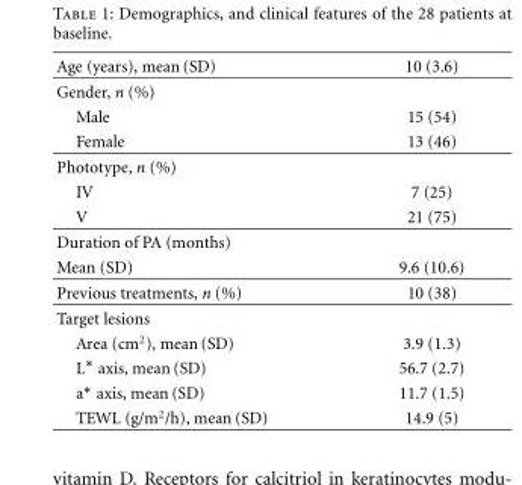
<table><thead><tr><td>Age (years), mean (SD)</td><td>10 (3.6)</td></tr></thead><tbody><tr><td colspan="2">Gender, n (%)</td></tr><tr><td>Male</td><td>15 (54)</td></tr><tr><td>Female</td><td>13 (46)</td></tr><tr><td colspan="2">Phototype, n (%)</td></tr><tr><td>IV</td><td>7 (25)</td></tr><tr><td>V</td><td>21 (75)</td></tr><tr><td colspan="2">Duration of PA (months)</td></tr><tr><td>Mean (SD)</td><td>9.6 (10.6)</td></tr><tr><td>Previous treatments, n (%)</td><td>10 (38)</td></tr><tr><td colspan="2">Target lesions</td></tr><tr><td>Area (cm<sup>2</sup>), mean (SD)</td><td>3.9 (1.3)</td></tr><tr><td>L∗ axis, mean (SD)</td><td>56.7 (2.7)</td></tr><tr><td>a∗ axis, mean (SD)</td><td>11.7 (1.5)</td></tr><tr><td>TEWL (g/m<sup>2</sup>/h), mean (SD)</td><td>14.9 (5)</td></tr></tbody></table>